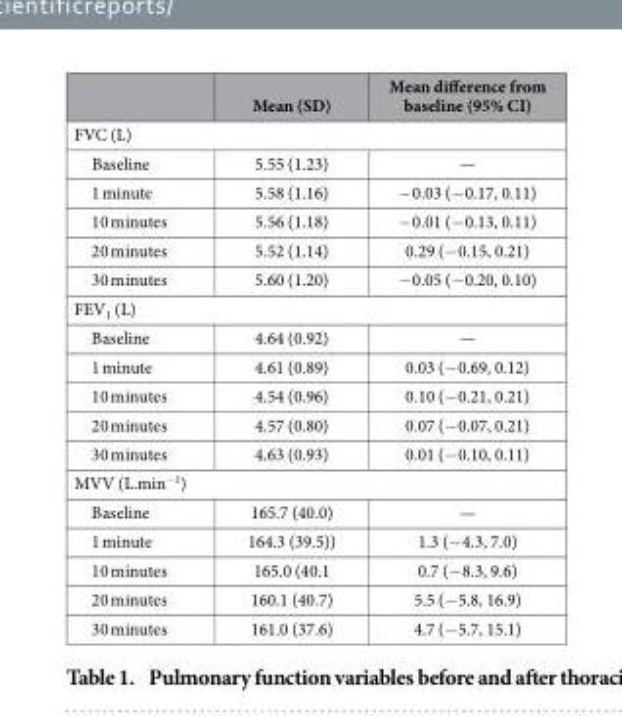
<table><thead><tr><td></td><td>Mean (SD)</td><td>Mean difference from baseline (95% CI)</td></tr></thead><tbody><tr><td colspan="3">FVC (L)</td></tr><tr><td>Baseline</td><td>5.55 (1.23)</td><td>—</td></tr><tr><td>1 minute</td><td>5.58 (1.16)</td><td>− 0.03 (− 0.17, 0.11)</td></tr><tr><td>10 minutes</td><td>5.56 (1.18)</td><td>− 0.01 (− 0.13, 0.11)</td></tr><tr><td>20 minutes</td><td>5.52 (1.14)</td><td>0.29 (− 0.15, 0.21)</td></tr><tr><td>30 minutes</td><td>5.60 (1.20)</td><td>− 0.05 (− 0.20, 0.10)</td></tr><tr><td colspan="3">FEV<sub>1</sub> (L)</td></tr><tr><td>Baseline</td><td>4.64 (0.92)</td><td>—</td></tr><tr><td>1 minute</td><td>4.61 (0.89)</td><td>0.03 (− 0.69, 0.12)</td></tr><tr><td>10 minutes</td><td>4.54 (0.96)</td><td>0.10 (− 0.21, 0.21)</td></tr><tr><td>20 minutes</td><td>4.57 (0.80)</td><td>0.07 (− 0.07, 0.21)</td></tr><tr><td>30 minutes</td><td>4.63 (0.93)</td><td>0.01 (− 0.10, 0.11)</td></tr><tr><td colspan="3">MVV (L.min<sup>−1</sup>)</td></tr><tr><td>Baseline</td><td>165.7 (40.0)</td><td>—</td></tr><tr><td>1 minute</td><td>164.3 (39.5))</td><td>1.3 (− 4.3, 7.0)</td></tr><tr><td>10 minutes</td><td>165.0 (40.1</td><td>0.7 (− 8.3, 9.6)</td></tr><tr><td>20 minutes</td><td>160.1 (40.7)</td><td>5.5 (− 5.8, 16.9)</td></tr><tr><td>30 minutes</td><td>161.0 (37.6)</td><td>4.7 (− 5.7, 15.1)</td></tr></tbody></table>